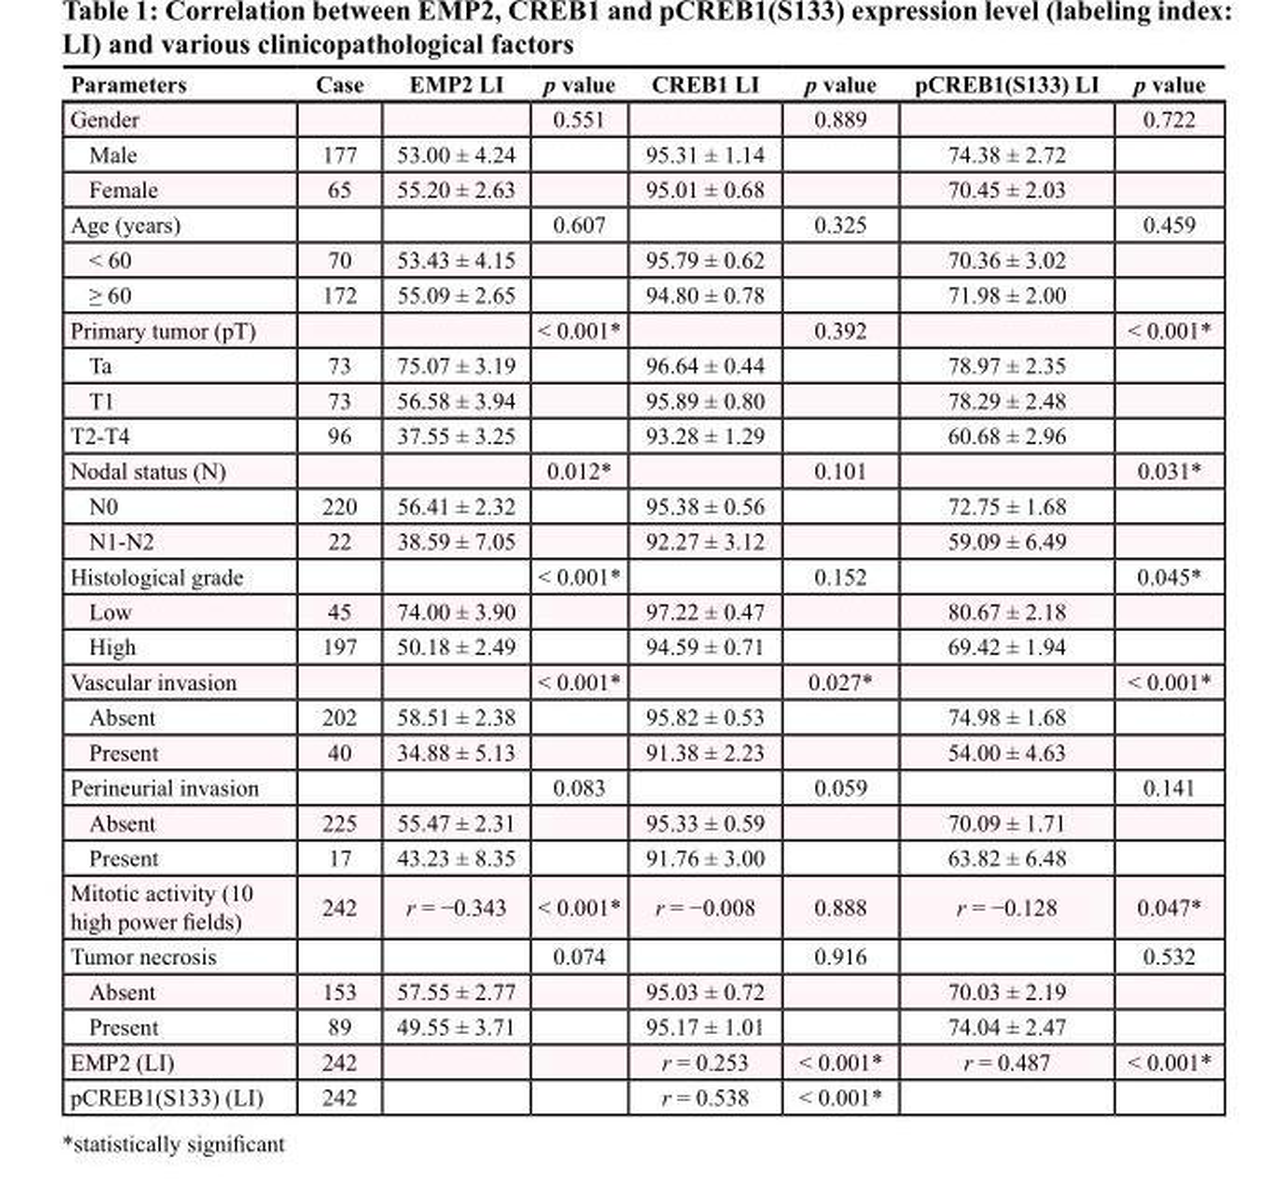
<table><thead><tr><td>Parameters</td><td>Case</td><td>EMP2 LI</td><td>p value</td><td>CREB1 LI</td><td>p value</td><td>pCREB1(S133) LI</td><td>p value</td></tr></thead><tbody><tr><td>Gender</td><td></td><td></td><td>0.551</td><td></td><td>0.889</td><td></td><td>0.722</td></tr><tr><td>Male</td><td>177</td><td>53.00 ± 4.24</td><td></td><td>95.31 ± 1.14</td><td></td><td>74.38 ± 2.72</td><td></td></tr><tr><td>Female</td><td>65</td><td>55.20 ± 2.63</td><td></td><td>95.01 ± 0.68</td><td></td><td>70.45 ± 2.03</td><td></td></tr><tr><td>Age (years)</td><td></td><td></td><td>0.607</td><td></td><td>0.325</td><td></td><td>0.459</td></tr><tr><td>&lt; 60</td><td>70</td><td>53.43 ± 4.15</td><td></td><td>95.79 ± 0.62</td><td></td><td>70.36 ± 3.02</td><td></td></tr><tr><td>≥ 60</td><td>172</td><td>55.09 ± 2.65</td><td></td><td>94.80 ± 0.78</td><td></td><td>71.98 ± 2.00</td><td></td></tr><tr><td>Primary tumor (pT)</td><td></td><td></td><td>&lt; 0.001*</td><td></td><td>0.392</td><td></td><td>&lt; 0.001*</td></tr><tr><td>Ta</td><td>73</td><td>75.07 ± 3.19</td><td></td><td>96.64 ± 0.44</td><td></td><td>78.97 ± 2.35</td><td></td></tr><tr><td>T1</td><td>73</td><td>56.58 ± 3.94</td><td></td><td>95.89 ± 0.80</td><td></td><td>78.29 ± 2.48</td><td></td></tr><tr><td>T2-T4</td><td>96</td><td>37.55 ± 3.25</td><td></td><td>93.28 ± 1.29</td><td></td><td>60.68 ± 2.96</td><td></td></tr><tr><td>Nodal status (N)</td><td></td><td></td><td>0.012*</td><td></td><td>0.101</td><td></td><td>0.031*</td></tr><tr><td>N0</td><td>220</td><td>56.41 ± 2.32</td><td></td><td>95.38 ± 0.56</td><td></td><td>72.75 ± 1.68</td><td></td></tr><tr><td>N1-N2</td><td>22</td><td>38.59 ± 7.05</td><td></td><td>92.27 ± 3.12</td><td></td><td>59.09 ± 6.49</td><td></td></tr><tr><td>Histological grade</td><td></td><td></td><td>&lt; 0.001*</td><td></td><td>0.152</td><td></td><td>0.045*</td></tr><tr><td>Low</td><td>45</td><td>74.00 ± 3.90</td><td></td><td>97.22 ± 0.47</td><td></td><td>80.67 ± 2.18</td><td></td></tr><tr><td>High</td><td>197</td><td>50.18 ± 2.49</td><td></td><td>94.59 ± 0.71</td><td></td><td>69.42 ± 1.94</td><td></td></tr><tr><td>Vascular invasion</td><td></td><td></td><td>&lt; 0.001*</td><td></td><td>0.027*</td><td></td><td>&lt; 0.001*</td></tr><tr><td>Absent</td><td>202</td><td>58.51 ± 2.38</td><td></td><td>95.82 ± 0.53</td><td></td><td>74.98 ± 1.68</td><td></td></tr><tr><td>Present</td><td>40</td><td>34.88 ± 5.13</td><td></td><td>91.38 ± 2.23</td><td></td><td>54.00 ± 4.63</td><td></td></tr><tr><td>Perineurial invasion</td><td></td><td></td><td>0.083</td><td></td><td>0.059</td><td></td><td>0.141</td></tr><tr><td>Absent</td><td>225</td><td>55.47 ± 2.31</td><td></td><td>95.33 ± 0.59</td><td></td><td>70.09 ± 1.71</td><td></td></tr><tr><td>Present</td><td>17</td><td>43.23 ± 8.35</td><td></td><td>91.76 ± 3.00</td><td></td><td>63.82 ± 6.48</td><td></td></tr><tr><td>Mitotic activity (10 high power fields)</td><td>242</td><td>r = −0.343</td><td>&lt; 0.001*</td><td>r = −0.008</td><td>0.888</td><td>r = −0.128</td><td>0.047*</td></tr><tr><td>Tumor necrosis</td><td></td><td></td><td>0.074</td><td></td><td>0.916</td><td></td><td>0.532</td></tr><tr><td>Absent</td><td>153</td><td>57.55 ± 2.77</td><td></td><td>95.03 ± 0.72</td><td></td><td>70.03 ± 2.19</td><td></td></tr><tr><td>Present</td><td>89</td><td>49.55 ± 3.71</td><td></td><td>95.17 ± 1.01</td><td></td><td>74.04 ± 2.47</td><td></td></tr><tr><td>EMP2 (LI)</td><td>242</td><td></td><td></td><td>r = 0.253</td><td>&lt; 0.001*</td><td>r = 0.487</td><td>&lt; 0.001*</td></tr><tr><td>pCREB1(S133) (LI)</td><td>242</td><td></td><td></td><td>r = 0.538</td><td>&lt; 0.001*</td><td></td><td></td></tr></tbody></table>